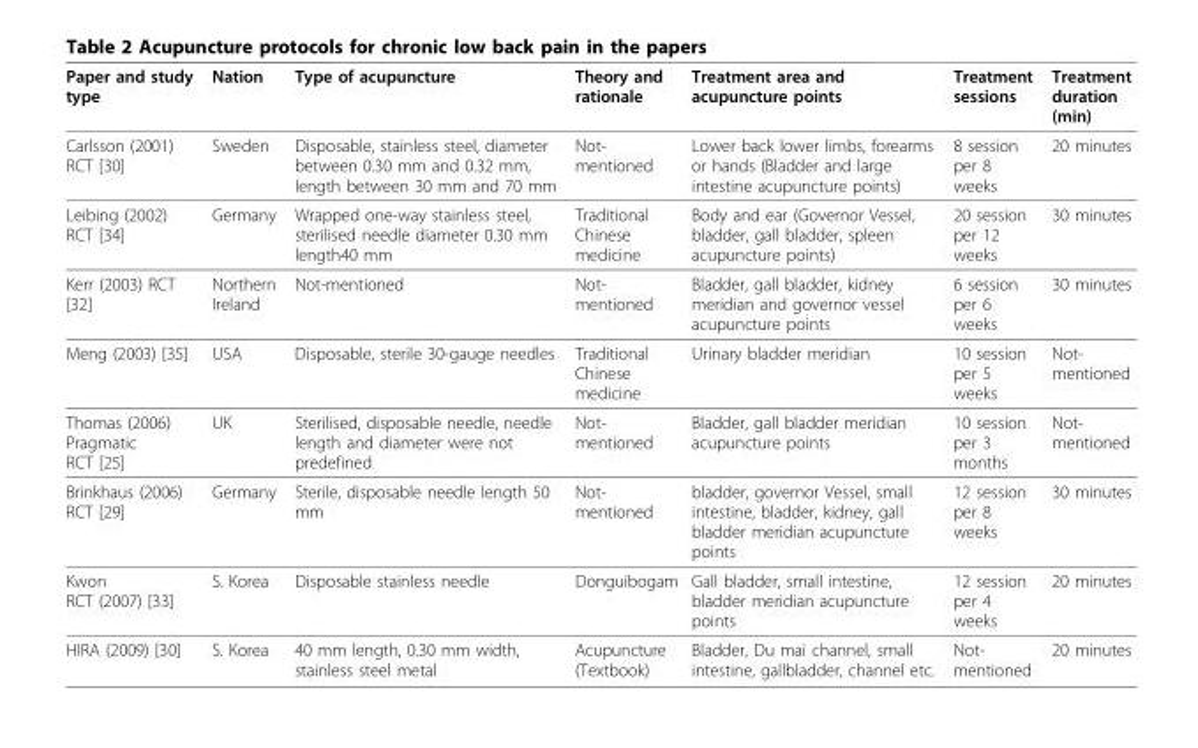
<table><thead><tr><td>Paper and study type</td><td>Nation</td><td>Type of acupuncture</td><td>Theory and rationale</td><td>Treatment area and acupuncture points</td><td>Treatment sessions</td><td>Treatment duration (min)</td></tr></thead><tbody><tr><td>Carlsson (2001) RCT [30]</td><td>Sweden</td><td>Disposable, stainless steel, diameter between 0.30 mm and 0.32 mm, length between 30 mm and 70 mm</td><td>Not- mentioned</td><td>Lower back lower limbs, forearms or hands (Bladder and large intestine acupuncture points)</td><td>8 session per 8 weeks</td><td>20 minutes</td></tr><tr><td>Leibing (2002) RCT [34]</td><td>Germany</td><td>Wrapped one-way stainless steel, sterilised needle diameter 0.30 mm length40 mm</td><td>Traditional Chinese medicine</td><td>Body and ear (Governor Vessel, bladder, gall bladder, spleen acupuncture points)</td><td>20 session per 12 weeks</td><td>30 minutes</td></tr><tr><td>Kerr (2003) RCT [32]</td><td>Northern Ireland</td><td>Not-mentioned</td><td>Not- mentioned</td><td>Bladder, gall bladder, kidney meridian and governor vessel acupuncture points</td><td>6 session per 6 weeks</td><td>30 minutes</td></tr><tr><td>Meng (2003) [35]</td><td>USA</td><td>Disposable, sterile 30-gauge needles</td><td>Traditional Chinese medicine</td><td>Urinary bladder meridian</td><td>10 session per 5 weeks</td><td>Not- mentioned</td></tr><tr><td>Thomas (2006) Pragmatic RCT [25]</td><td>UK</td><td>Sterilised, disposable needle, needle length and diameter were not predefined</td><td>Not- mentioned</td><td>Bladder, gall bladder meridian acupuncture points</td><td>10 session per 3 months</td><td>Not- mentioned</td></tr><tr><td>Brinkhaus (2006) RCT [29]</td><td>Germany</td><td>Sterile, disposable needle length 50 mm</td><td>Not- mentioned</td><td>bladder, governor Vessel, small intestine, bladder, kidney, gall bladder meridian acupuncture points</td><td>12 session per 8 weeks</td><td>30 minutes</td></tr><tr><td>Kwon RCT (2007) [33]</td><td>S. Korea</td><td>Disposable stainless needle</td><td>Donguibogam</td><td>Gall bladder, small intestine, bladder meridian acupuncture points</td><td>12 session per 4 weeks</td><td>20 minutes</td></tr><tr><td>HIRA (2009) [30]</td><td>S. Korea</td><td>40 mm length, 0.30 mm width, stainless steel metal</td><td>Acupuncture (Textbook)</td><td>Bladder, Du mai channel, small intestine, gallbladder, channel etc.</td><td>Not- mentioned</td><td>20 minutes</td></tr></tbody></table>